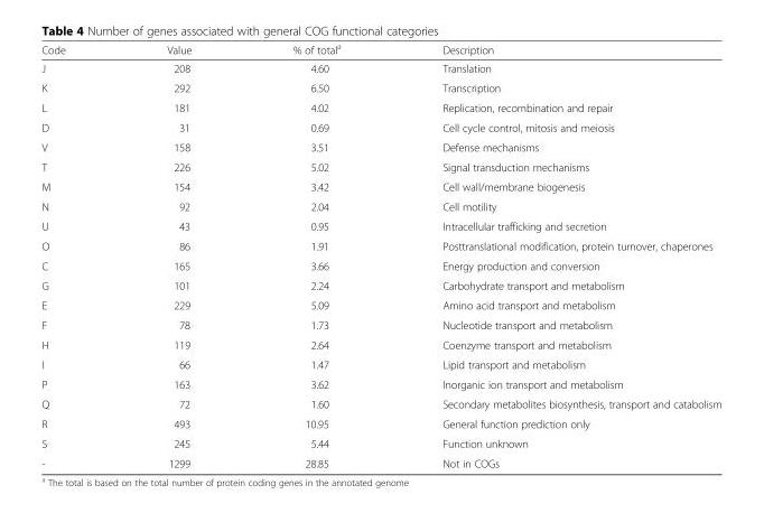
<table><thead><tr><td>Code</td><td>Value</td><td>% of total<sup>a</sup></td><td>Description</td></tr></thead><tbody><tr><td>J</td><td>208</td><td>4.60</td><td>Translation</td></tr><tr><td>K</td><td>292</td><td>6.50</td><td>Transcription</td></tr><tr><td>L</td><td>181</td><td>4.02</td><td>Replication, recombination and repair</td></tr><tr><td>D</td><td>31</td><td>0.69</td><td>Cell cycle control, mitosis and meiosis</td></tr><tr><td>V</td><td>158</td><td>3.51</td><td>Defense mechanisms</td></tr><tr><td>T</td><td>226</td><td>5.02</td><td>Signal transduction mechanisms</td></tr><tr><td>M</td><td>154</td><td>3.42</td><td>Cell wall/membrane biogenesis</td></tr><tr><td>N</td><td>92</td><td>2.04</td><td>Cell motility</td></tr><tr><td>U</td><td>43</td><td>0.95</td><td>Intracellular trafficking and secretion</td></tr><tr><td>O</td><td>86</td><td>1.91</td><td>Posttranslational modification, protein turnover, chaperones</td></tr><tr><td>C</td><td>165</td><td>3.66</td><td>Energy production and conversion</td></tr><tr><td>G</td><td>101</td><td>2.24</td><td>Carbohydrate transport and metabolism</td></tr><tr><td>E</td><td>229</td><td>5.09</td><td>Amino acid transport and metabolism</td></tr><tr><td>F</td><td>78</td><td>1.73</td><td>Nucleotide transport and metabolism</td></tr><tr><td>H</td><td>119</td><td>2.64</td><td>Coenzyme transport and metabolism</td></tr><tr><td>I</td><td>66</td><td>1.47</td><td>Lipid transport and metabolism</td></tr><tr><td>P</td><td>163</td><td>3.62</td><td>Inorganic ion transport and metabolism</td></tr><tr><td>Q</td><td>72</td><td>1.60</td><td>Secondary metabolites biosynthesis, transport and catabolism</td></tr><tr><td>R</td><td>493</td><td>10.95</td><td>General function prediction only</td></tr><tr><td>S</td><td>245</td><td>5.44</td><td>Function unknown</td></tr><tr><td>-</td><td>1299</td><td>28.85</td><td>Not in COGs</td></tr></tbody></table>